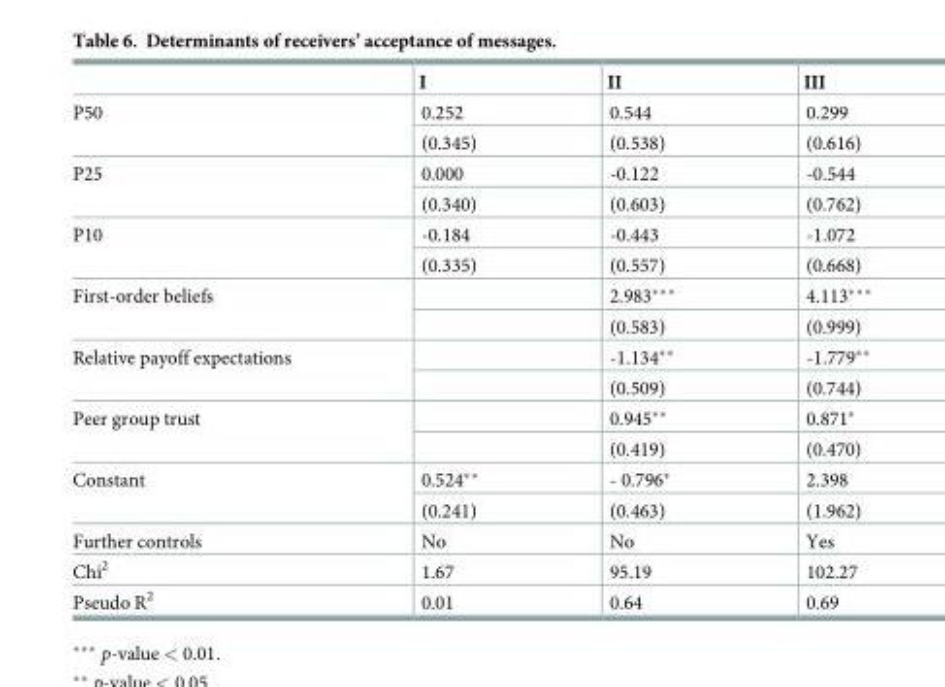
<table><thead><tr><td></td><td>I</td><td>II</td><td>III</td></tr></thead><tbody><tr><td rowspan="2">P50</td><td>0.252</td><td>0.544</td><td>0.299</td></tr><tr><td>(0.345)</td><td>(0.538)</td><td>(0.616)</td></tr><tr><td rowspan="2">P25</td><td>0.000</td><td>-0.122</td><td>-0.544</td></tr><tr><td>(0.340)</td><td>(0.603)</td><td>(0.762)</td></tr><tr><td rowspan="2">P10</td><td>-0.184</td><td>-0.443</td><td>-1.072</td></tr><tr><td>(0.335)</td><td>(0.557)</td><td>(0.668)</td></tr><tr><td rowspan="2">First-order beliefs</td><td></td><td>2.983***</td><td>4.113***</td></tr><tr><td></td><td>(0.583)</td><td>(0.999)</td></tr><tr><td rowspan="2">Relative payoff expectations</td><td></td><td>-1.134**</td><td>-1.779**</td></tr><tr><td></td><td>(0.509)</td><td>(0.744)</td></tr><tr><td rowspan="2">Peer group trust</td><td></td><td>0.945**</td><td>0.871*</td></tr><tr><td></td><td>(0.419)</td><td>(0.470)</td></tr><tr><td rowspan="2">Constant</td><td>0.524**</td><td>- 0.796*</td><td>2.398</td></tr><tr><td>(0.241)</td><td>(0.463)</td><td>(1.962)</td></tr><tr><td>Further controls</td><td>No</td><td>No</td><td>Yes</td></tr><tr><td>Chi<sup>2</sup></td><td>1.67</td><td>95.19</td><td>102.27</td></tr><tr><td>Pseudo R<sup>2</sup></td><td>0.01</td><td>0.64</td><td>0.69</td></tr></tbody></table>